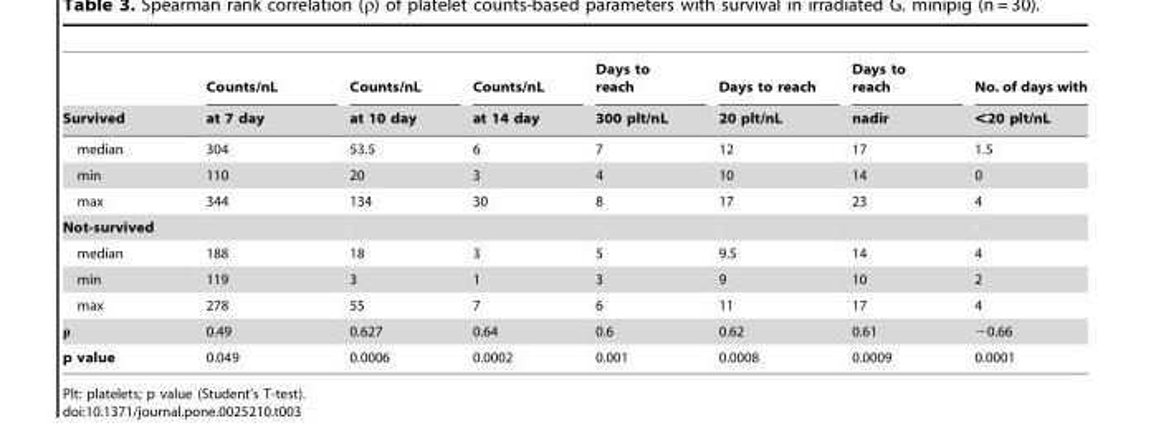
<table><thead><tr><td rowspan="2">Survived</td><td rowspan="2">Counts/nL at 7 day</td><td rowspan="2">Counts/nL at 10 day</td><td rowspan="2">Counts/nL at 14 day</td><td rowspan="2">Days to reach 300 plt/nL</td><td rowspan="2">Days to reach 20 plt/nL</td><td rowspan="2">Days to reach nadir</td><td rowspan="2">No. of days with &lt;20 plt/nL</td></tr><tr></tr></thead><tbody><tr><td>median</td><td>304</td><td>53.5</td><td>6</td><td>7</td><td>12</td><td>17</td><td>1.5</td></tr><tr><td>min</td><td>110</td><td>20</td><td>3</td><td>4</td><td>10</td><td>14</td><td>0</td></tr><tr><td>max</td><td>344</td><td>134</td><td>30</td><td>8</td><td>17</td><td>23</td><td>4</td></tr><tr><td colspan="8">Not-survived</td></tr><tr><td>median</td><td>188</td><td>18</td><td>3</td><td>5</td><td>9.5</td><td>14</td><td>4</td></tr><tr><td>min</td><td>119</td><td>3</td><td>1</td><td>3</td><td>9</td><td>10</td><td>2</td></tr><tr><td>max</td><td>278</td><td>55</td><td>7</td><td>6</td><td>11</td><td>17</td><td>4</td></tr><tr><td>ρ</td><td>0.49</td><td>0.627</td><td>0.64</td><td>0.6</td><td>0.62</td><td>0.61</td><td>−0.66</td></tr><tr><td>p value</td><td>0.049</td><td>0.0006</td><td>0.0002</td><td>0.001</td><td>0.0008</td><td>0.0009</td><td>0.0001</td></tr></tbody></table>